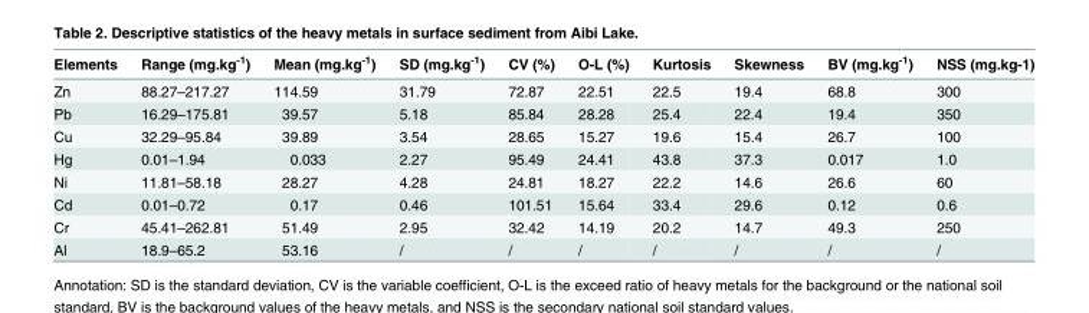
<table><thead><tr><td>Elements</td><td>Range (mg.kg<sup>-1</sup>)</td><td>Mean (mg.kg<sup>-1</sup>)</td><td>SD (mg.kg<sup>-1</sup>)</td><td>CV (%)</td><td>O-L (%)</td><td>Kurtosis</td><td>Skewness</td><td>BV (mg.kg<sup>-1</sup>)</td><td>NSS (mg.kg-1)</td></tr></thead><tbody><tr><td>Zn</td><td>88.27–217.27</td><td>114.59</td><td>31.79</td><td>72.87</td><td>22.51</td><td>22.5</td><td>19.4</td><td>68.8</td><td>300</td></tr><tr><td>Pb</td><td>16.29–175.81</td><td>39.57</td><td>5.18</td><td>85.84</td><td>28.28</td><td>25.4</td><td>22.4</td><td>19.4</td><td>350</td></tr><tr><td>Cu</td><td>32.29–95.84</td><td>39.89</td><td>3.54</td><td>28.65</td><td>15.27</td><td>19.6</td><td>15.4</td><td>26.7</td><td>100</td></tr><tr><td>Hg</td><td>0.01–1.94</td><td>0.033</td><td>2.27</td><td>95.49</td><td>24.41</td><td>43.8</td><td>37.3</td><td>0.017</td><td>1.0</td></tr><tr><td>Ni</td><td>11.81–58.18</td><td>28.27</td><td>4.28</td><td>24.81</td><td>18.27</td><td>22.2</td><td>14.6</td><td>26.6</td><td>60</td></tr><tr><td>Cd</td><td>0.01–0.72</td><td>0.17</td><td>0.46</td><td>101.51</td><td>15.64</td><td>33.4</td><td>29.6</td><td>0.12</td><td>0.6</td></tr><tr><td>Cr</td><td>45.41–262.81</td><td>51.49</td><td>2.95</td><td>32.42</td><td>14.19</td><td>20.2</td><td>14.7</td><td>49.3</td><td>250</td></tr><tr><td>Al</td><td>18.9–65.2</td><td>53.16</td><td>/</td><td>/</td><td>/</td><td>/</td><td>/</td><td>/</td><td>/</td></tr></tbody></table>